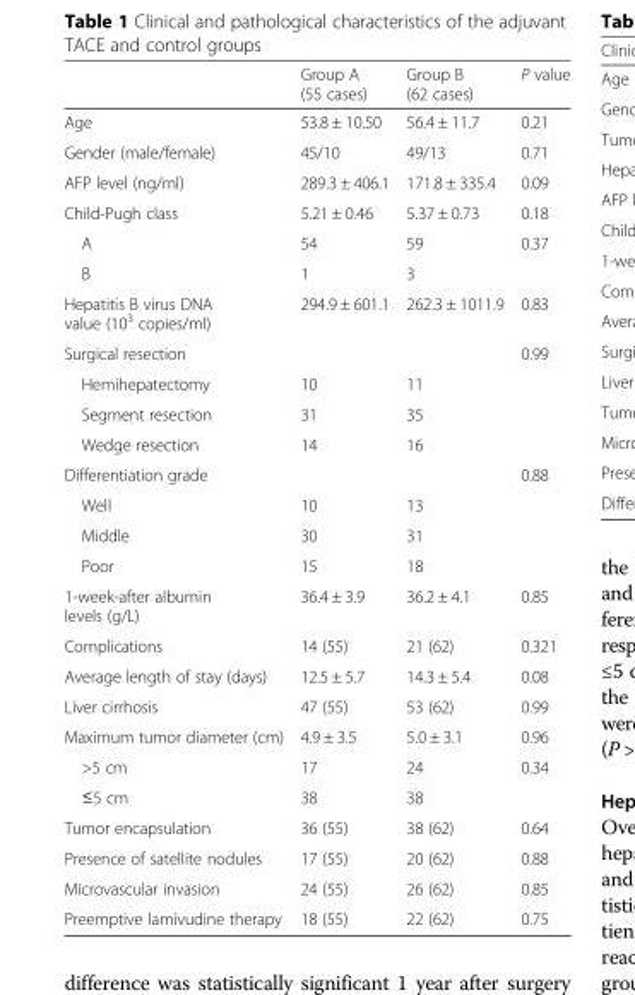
<table><thead><tr><td></td><td>Group A (55 cases)</td><td>Group B (62 cases)</td><td>P value</td></tr></thead><tbody><tr><td>Age</td><td>53.8 ± 10.50</td><td>56.4 ± 11.7</td><td>0.21</td></tr><tr><td>Gender (male/female)</td><td>45/10</td><td>49/13</td><td>0.71</td></tr><tr><td>AFP level (ng/ml)</td><td>289.3 ± 406.1</td><td>171.8 ± 335.4</td><td>0.09</td></tr><tr><td>Child-Pugh class</td><td>5.21 ± 0.46</td><td>5.37 ± 0.73</td><td>0.18</td></tr><tr><td>A</td><td>54</td><td>59</td><td>0.37</td></tr><tr><td>B</td><td>1</td><td>3</td><td></td></tr><tr><td>Hepatitis B virus DNA value (10<sup>3</sup> copies/ml)</td><td>294.9 ± 601.1</td><td>262.3 ± 1011.9</td><td>0.83</td></tr><tr><td>Surgical resection</td><td></td><td></td><td>0.99</td></tr><tr><td>Hemihepatectomy</td><td>10</td><td>11</td><td></td></tr><tr><td>Segment resection</td><td>31</td><td>35</td><td></td></tr><tr><td>Wedge resection</td><td>14</td><td>16</td><td></td></tr><tr><td>Differentiation grade</td><td></td><td></td><td>0.88</td></tr><tr><td>Well</td><td>10</td><td>13</td><td></td></tr><tr><td>Middle</td><td>30</td><td>31</td><td></td></tr><tr><td>Poor</td><td>15</td><td>18</td><td></td></tr><tr><td>1-week-after albumin levels (g/L)</td><td>36.4 ± 3.9</td><td>36.2 ± 4.1</td><td>0.85</td></tr><tr><td>Complications</td><td>14 (55)</td><td>21 (62)</td><td>0.321</td></tr><tr><td>Average length of stay (days)</td><td>12.5 ± 5.7</td><td>14.3 ± 5.4</td><td>0.08</td></tr><tr><td>Liver cirrhosis</td><td>47 (55)</td><td>53 (62)</td><td>0.99</td></tr><tr><td>Maximum tumor diameter (cm)</td><td>4.9 ± 3.5</td><td>5.0 ± 3.1</td><td>0.96</td></tr><tr><td>&gt;5 cm</td><td>17</td><td>24</td><td>0.34</td></tr><tr><td>≤5 cm</td><td>38</td><td>38</td><td></td></tr><tr><td>Tumor encapsulation</td><td>36 (55)</td><td>38 (62)</td><td>0.64</td></tr><tr><td>Presence of satellite nodules</td><td>17 (55)</td><td>20 (62)</td><td>0.88</td></tr><tr><td>Microvascular invasion</td><td>24 (55)</td><td>26 (62)</td><td>0.85</td></tr><tr><td>Preemptive lamivudine therapy</td><td>18 (55)</td><td>22 (62)</td><td>0.75</td></tr></tbody></table>